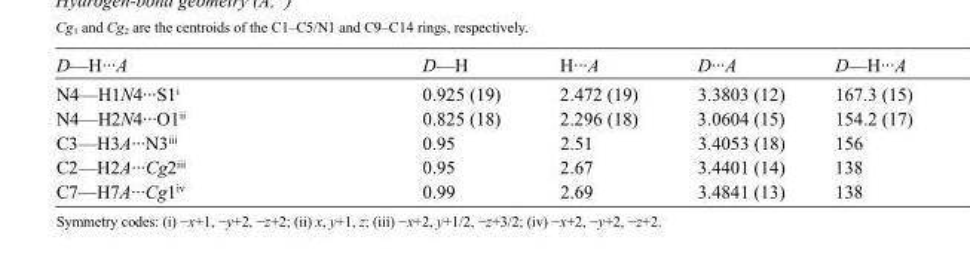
<table><tbody><tr><td>D—H···A</td><td>D—H</td><td>H···A</td><td>D···A</td><td>D—H···A</td></tr><tr><td>N4—H1N4···S1<sup>i</sup></td><td>0.925 (19)</td><td>2.472 (19)</td><td>3.3803 (12)</td><td>167.3 (15)</td></tr><tr><td>N4—H2N4···O1<sup>ii</sup></td><td>0.825 (18)</td><td>2.296 (18)</td><td>3.0604 (15)</td><td>154.2 (17)</td></tr><tr><td>C3—H3A···N3<sup>iii</sup></td><td>0.95</td><td>2.51</td><td>3.4053 (18)</td><td>156</td></tr><tr><td>C2—H2A···Cg2<sup>iii</sup></td><td>0.95</td><td>2.67</td><td>3.4401 (14)</td><td>138</td></tr><tr><td>C7—H7A···Cg1<sup>iv</sup></td><td>0.99</td><td>2.69</td><td>3.4841 (13)</td><td>138</td></tr></tbody></table>